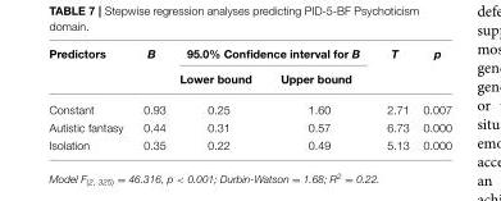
<table><thead><tr><td rowspan="2">Predictors</td><td rowspan="2">B</td><td colspan="2">95.0% Confidence interval for B</td><td rowspan="2">T</td><td rowspan="2">p</td></tr><tr><td>Lower bound</td><td>Upper bound</td></tr></thead><tbody><tr><td>Constant</td><td>0.93</td><td>0.25</td><td>1.60</td><td>2.71</td><td>0.007</td></tr><tr><td>Autistic fantasy</td><td>0.44</td><td>0.31</td><td>0.57</td><td>6.73</td><td>0.000</td></tr><tr><td>Isolation</td><td>0.35</td><td>0.22</td><td>0.49</td><td>5.13</td><td>0.000</td></tr></tbody></table>